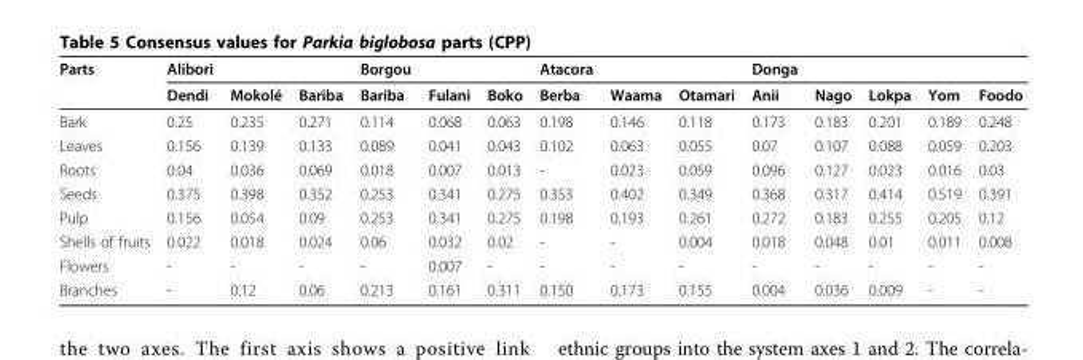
<table><thead><tr><td rowspan="2">Parts</td><td rowspan="2">Alibori Dendi</td><td rowspan="2">Mokolé</td><td rowspan="2">Bariba</td><td rowspan="2">Borgou Bariba</td><td rowspan="2">Fulani</td><td rowspan="2">Boko</td><td rowspan="2">Atacora Berba</td><td rowspan="2">Waama</td><td rowspan="2">Otamari</td><td rowspan="2">Donga Anii</td><td rowspan="2">Nago</td><td rowspan="2">Lokpa</td><td rowspan="2">Yom</td><td rowspan="2">Foodo</td></tr><tr></tr></thead><tbody><tr><td>Bark</td><td>0.25</td><td>0.235</td><td>0.271</td><td>0.114</td><td>0.068</td><td>0.063</td><td>0.198</td><td>0.146</td><td>0.118</td><td>0.173</td><td>0.183</td><td>0.201</td><td>0.189</td><td>0.248</td></tr><tr><td>Leaves</td><td>0.156</td><td>0.139</td><td>0.133</td><td>0.089</td><td>0.041</td><td>0.043</td><td>0.102</td><td>0.063</td><td>0.055</td><td>0.07</td><td>0.107</td><td>0.088</td><td>0.059</td><td>0.203</td></tr><tr><td>Roots</td><td>0.04</td><td>0.036</td><td>0.069</td><td>0.018</td><td>0.007</td><td>0.013</td><td>-</td><td>0.023</td><td>0.059</td><td>0.096</td><td>0.127</td><td>0.023</td><td>0.016</td><td>0.03</td></tr><tr><td>Seeds</td><td>0.375</td><td>0.398</td><td>0.352</td><td>0.253</td><td>0.341</td><td>0.275</td><td>0.353</td><td>0.402</td><td>0.349</td><td>0.368</td><td>0.317</td><td>0.414</td><td>0.519</td><td>0.391</td></tr><tr><td>Pulp</td><td>0.156</td><td>0.054</td><td>0.09</td><td>0.253</td><td>0.341</td><td>0.275</td><td>0.198</td><td>0.193</td><td>0.261</td><td>0.272</td><td>0.183</td><td>0.255</td><td>0.205</td><td>0.12</td></tr><tr><td>Shells of fruits</td><td>0.022</td><td>0.018</td><td>0.024</td><td>0.06</td><td>0.032</td><td>0.02</td><td>-</td><td>-</td><td>0.004</td><td>0.018</td><td>0.048</td><td>0.01</td><td>0.011</td><td>0.008</td></tr><tr><td>Flowers</td><td>-</td><td>-</td><td>-</td><td>-</td><td>0.007</td><td>-</td><td>-</td><td>-</td><td>-</td><td>-</td><td>-</td><td>-</td><td>-</td><td>-</td></tr><tr><td>Branches</td><td>-</td><td>0.12</td><td>0.06</td><td>0.213</td><td>0.161</td><td>0.311</td><td>0.150</td><td>0.173</td><td>0.155</td><td>0.004</td><td>0.036</td><td>0.009</td><td>-</td><td>-</td></tr></tbody></table>